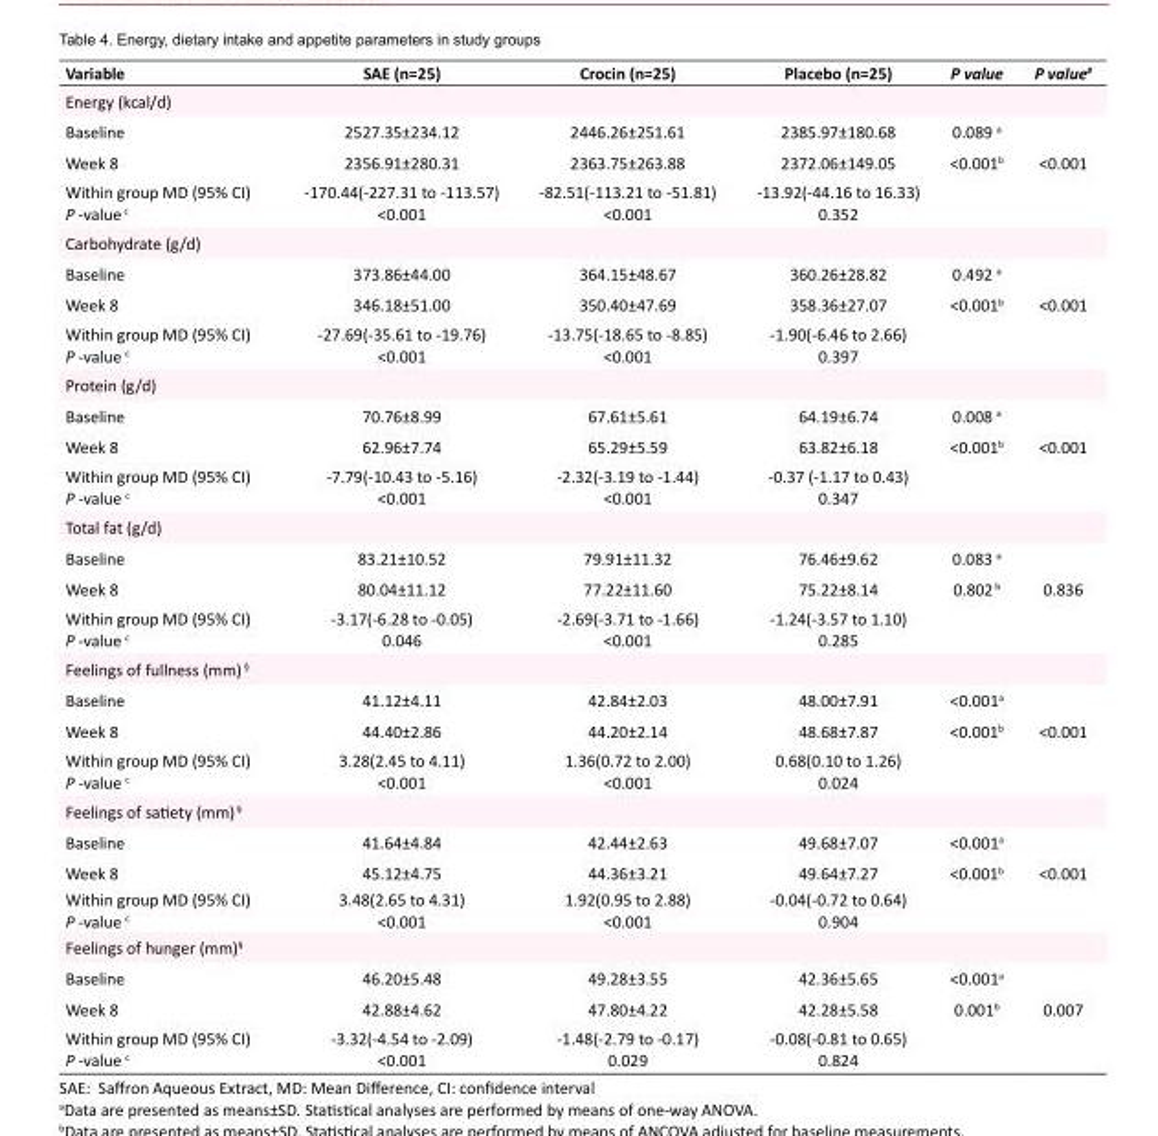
<table><tbody><tr><td>Variable</td><td>SAE (n=25)</td><td>Crocin (n=25)</td><td>Placebo (n=25)</td><td>P value</td><td>P value<sup>#</sup></td></tr><tr><td colspan="6">Energy (kcal/d)</td></tr><tr><td>Baseline</td><td>2527.35±234.12</td><td>2446.26±251.61</td><td>2385.97±180.68</td><td>0.089 <sup>a</sup></td><td></td></tr><tr><td>Week 8</td><td>2356.91±280.31</td><td>2363.75±263.88</td><td>2372.06±149.05</td><td>&lt;0.001<sup>b</sup></td><td>&lt;0.001</td></tr><tr><td>Within group MD (95% CI) P -value <sup>c</sup></td><td>-170.44(-227.31 to -113.57) &lt;0.001</td><td>-82.51(-113.21 to -51.81) &lt;0.001</td><td>-13.92(-44.16 to 16.33) 0.352</td><td></td><td></td></tr><tr><td colspan="6">Carbohydrate (g/d)</td></tr><tr><td>Baseline</td><td>373.86±44.00</td><td>364.15±48.67</td><td>360.26±28.82</td><td>0.492 <sup>a</sup></td><td></td></tr><tr><td>Week 8</td><td>346.18±51.00</td><td>350.40±47.69</td><td>358.36±27.07</td><td>&lt;0.001<sup>b</sup></td><td>&lt;0.001</td></tr><tr><td>Within group MD (95% CI) P -value <sup>c</sup></td><td>-27.69(-35.61 to -19.76) &lt;0.001</td><td>-13.75(-18.65 to -8.85) &lt;0.001</td><td>-1.90(-6.46 to 2.66) 0.397</td><td></td><td></td></tr><tr><td colspan="6">Protein (g/d)</td></tr><tr><td>Baseline</td><td>70.76±8.99</td><td>67.61±5.61</td><td>64.19±6.74</td><td>0.008 <sup>a</sup></td><td></td></tr><tr><td>Week 8</td><td>62.96±7.74</td><td>65.29±5.59</td><td>63.82±6.18</td><td>&lt;0.001<sup>b</sup></td><td>&lt;0.001</td></tr><tr><td>Within group MD (95% CI) P -value <sup>c</sup></td><td>-7.79(-10.43 to -5.16) &lt;0.001</td><td>-2.32(-3.19 to -1.44) &lt;0.001</td><td>-0.37 (-1.17 to 0.43) 0.347</td><td></td><td></td></tr><tr><td colspan="6">Total fat (g/d)</td></tr><tr><td>Baseline</td><td>83.21±10.52</td><td>79.91±11.32</td><td>76.46±9.62</td><td>0.083 <sup>a</sup></td><td></td></tr><tr><td>Week 8</td><td>80.04±11.12</td><td>77.22±11.60</td><td>75.22±8.14</td><td>0.802 <sup>b</sup></td><td>0.836</td></tr><tr><td>Within group MD (95% CI) P -value <sup>c</sup></td><td>-3.17(-6.28 to -0.05) 0.046</td><td>-2.69(-3.71 to -1.66) &lt;0.001</td><td>-1.24(-3.57 to 1.10) 0.285</td><td></td><td></td></tr><tr><td colspan="6">Feelings of fullness (mm) <sup>§</sup></td></tr><tr><td>Baseline</td><td>41.12±4.11</td><td>42.84±2.03</td><td>48.00±7.91</td><td>&lt;0.001<sup>a</sup></td><td></td></tr><tr><td>Week 8</td><td>44.40±2.86</td><td>44.20±2.14</td><td>48.68±7.87</td><td>&lt;0.001<sup>b</sup></td><td>&lt;0.001</td></tr><tr><td>Within group MD (95% CI) P -value <sup>c</sup></td><td>3.28(2.45 to 4.11) &lt;0.001</td><td>1.36(0.72 to 2.00) &lt;0.001</td><td>0.68(0.10 to 1.26) 0.024</td><td></td><td></td></tr><tr><td colspan="6">Feelings of satiety (mm) <sup>§</sup></td></tr><tr><td>Baseline</td><td>41.64±4.84</td><td>42.44±2.63</td><td>49.68±7.07</td><td>&lt;0.001<sup>a</sup></td><td></td></tr><tr><td>Week 8</td><td>45.12±4.75</td><td>44.36±3.21</td><td>49.64±7.27</td><td>&lt;0.001<sup>b</sup></td><td>&lt;0.001</td></tr><tr><td>Within group MD (95% CI) P -value <sup>c</sup></td><td>3.48(2.65 to 4.31) &lt;0.001</td><td>1.92(0.95 to 2.88) &lt;0.001</td><td>-0.04(-0.72 to 0.64) 0.904</td><td></td><td></td></tr><tr><td colspan="6">Feelings of hunger (mm)<sup>§</sup></td></tr><tr><td>Baseline</td><td>46.20±5.48</td><td>49.28±3.55</td><td>42.36±5.65</td><td>&lt;0.001<sup>a</sup></td><td></td></tr><tr><td>Week 8</td><td>42.88±4.62</td><td>47.80±4.22</td><td>42.28±5.58</td><td>0.001<sup>b</sup></td><td>0.007</td></tr><tr><td>Within group MD (95% CI) P -value <sup>c</sup></td><td>-3.32(-4.54 to -2.09) &lt;0.001</td><td>-1.48(-2.79 to -0.17) 0.029</td><td>-0.08(-0.81 to 0.65) 0.824</td><td></td><td></td></tr></tbody></table>